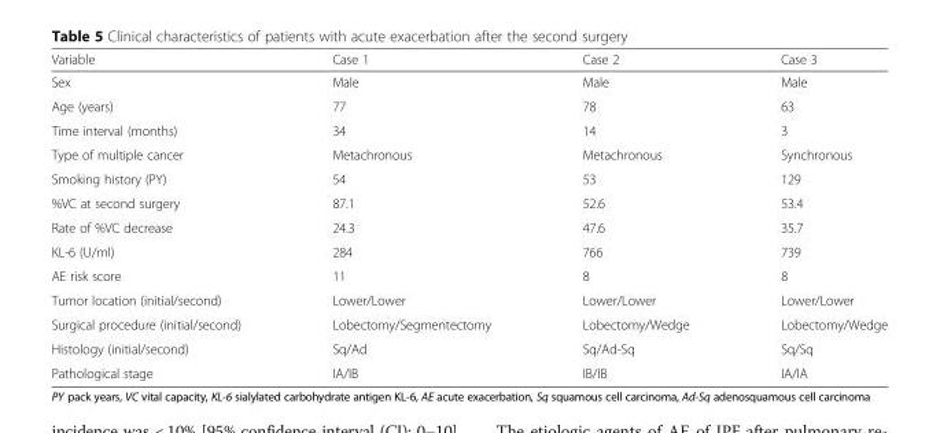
<table><thead><tr><td>Variable</td><td>Case 1</td><td>Case 2</td><td>Case 3</td></tr></thead><tbody><tr><td>Sex</td><td>Male</td><td>Male</td><td>Male</td></tr><tr><td>Age (years)</td><td>77</td><td>78</td><td>63</td></tr><tr><td>Time interval (months)</td><td>34</td><td>14</td><td>3</td></tr><tr><td>Type of multiple cancer</td><td>Metachronous</td><td>Metachronous</td><td>Synchronous</td></tr><tr><td>Smoking history (PY)</td><td>54</td><td>53</td><td>129</td></tr><tr><td>%VC at second surgery</td><td>87.1</td><td>52.6</td><td>53.4</td></tr><tr><td>Rate of %VC decrease</td><td>24.3</td><td>47.6</td><td>35.7</td></tr><tr><td>KL-6 (U/ml)</td><td>284</td><td>766</td><td>739</td></tr><tr><td>AE risk score</td><td>11</td><td>8</td><td>8</td></tr><tr><td>Tumor location (initial/second)</td><td>Lower/Lower</td><td>Lower/Lower</td><td>Lower/Lower</td></tr><tr><td>Surgical procedure (initial/second)</td><td>Lobectomy/Segmentectomy</td><td>Lobectomy/Wedge</td><td>Lobectomy/Wedge</td></tr><tr><td>Histology (initial/second)</td><td>Sq/Ad</td><td>Sq/Ad-Sq</td><td>Sq/Sq</td></tr><tr><td>Pathological stage</td><td>IA/IB</td><td>IB/IB</td><td>IA/IA</td></tr></tbody></table>